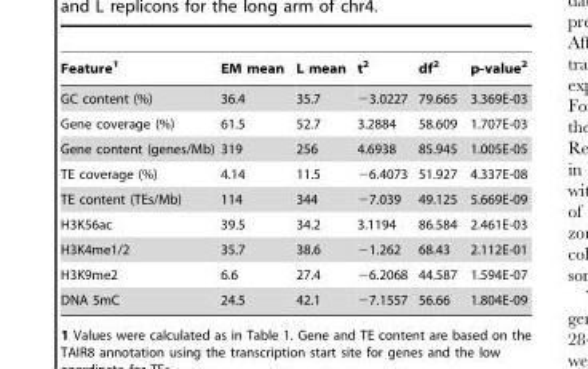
<table><thead><tr><td>Feature<sup>1</sup></td><td>EM mean</td><td>L mean</td><td>t<sup>2</sup></td><td>df<sup>2</sup></td><td>p-value<sup>2</sup></td></tr></thead><tbody><tr><td>GC content (%)</td><td>36.4</td><td>35.7</td><td>−3.0227</td><td>79.665</td><td>3.369E-03</td></tr><tr><td>Gene coverage (%)</td><td>61.5</td><td>52.7</td><td>3.2884</td><td>58.609</td><td>1.707E-03</td></tr><tr><td>Gene content (genes/Mb)</td><td>319</td><td>256</td><td>4.6938</td><td>85.945</td><td>1.005E-05</td></tr><tr><td>TE coverage (%)</td><td>4.14</td><td>11.5</td><td>−6.4073</td><td>51.927</td><td>4.337E-08</td></tr><tr><td>TE content (TEs/Mb)</td><td>114</td><td>344</td><td>−7.039</td><td>49.125</td><td>5.669E-09</td></tr><tr><td>H3K56ac</td><td>39.5</td><td>34.2</td><td>3.1194</td><td>86.584</td><td>2.461E-03</td></tr><tr><td>H3K4me1/2</td><td>35.7</td><td>38.6</td><td>−1.262</td><td>68.43</td><td>2.112E-01</td></tr><tr><td>H3K9me2</td><td>6.6</td><td>27.4</td><td>−6.2068</td><td>44.587</td><td>1.594E-07</td></tr><tr><td>DNA 5mC</td><td>24.5</td><td>42.1</td><td>−7.1557</td><td>56.66</td><td>1.804E-09</td></tr></tbody></table>